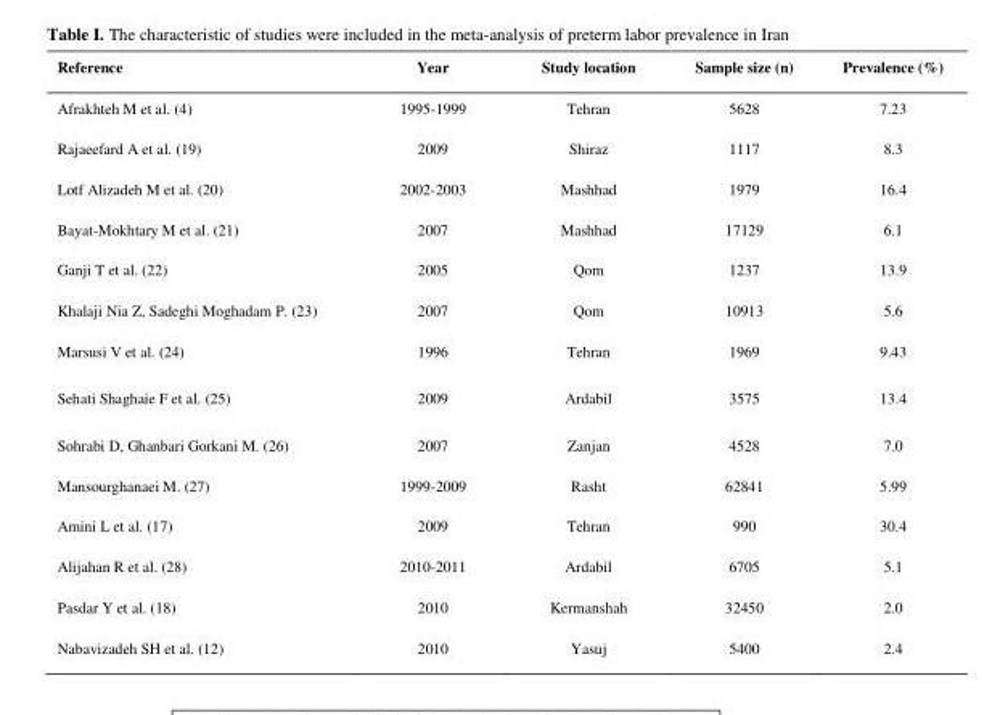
<table><thead><tr><td>Reference</td><td>Year</td><td>Study location</td><td>Sample size (n)</td><td>Prevalence (%)</td></tr></thead><tbody><tr><td>Afrakhteh M et al. (4)</td><td>1995-1999</td><td>Tehran</td><td>5628</td><td>7.23</td></tr><tr><td>Rajaeefard A et al. (19)</td><td>2009</td><td>Shiraz</td><td>1117</td><td>8.3</td></tr><tr><td>Lotf Alizadeh M et al. (20)</td><td>2002-2003</td><td>Mashhad</td><td>1979</td><td>16.4</td></tr><tr><td>Bayat-Mokhtary M et al. (21)</td><td>2007</td><td>Mashhad</td><td>17129</td><td>6.1</td></tr><tr><td>Ganji T et al. (22)</td><td>2005</td><td>Qom</td><td>1237</td><td>13.9</td></tr><tr><td>Khalaji Nia Z, Sadeghi Moghadam P. (23)</td><td>2007</td><td>Qom</td><td>10913</td><td>5.6</td></tr><tr><td>Marsusi V et al. (24)</td><td>1996</td><td>Tehran</td><td>1969</td><td>9.43</td></tr><tr><td>Sehati Shaghaie F et al. (25)</td><td>2009</td><td>Ardabil</td><td>3575</td><td>13.4</td></tr><tr><td>Sohrabi D, Ghanbari Gorkani M. (26)</td><td>2007</td><td>Zanjan</td><td>4528</td><td>7.0</td></tr><tr><td>Mansourghanaei M. (27)</td><td>1999-2009</td><td>Rasht</td><td>62841</td><td>5.99</td></tr><tr><td>Amini L et al. (17)</td><td>2009</td><td>Tehran</td><td>990</td><td>30.4</td></tr><tr><td>Alijahan R et al. (28)</td><td>2010-2011</td><td>Ardabil</td><td>6705</td><td>5.1</td></tr><tr><td>Pasdar Y et al. (18)</td><td>2010</td><td>Kermanshah</td><td>32450</td><td>2.0</td></tr><tr><td>Nabavizadeh SH et al. (12)</td><td>2010</td><td>Yasuj</td><td>5400</td><td>2.4</td></tr></tbody></table>